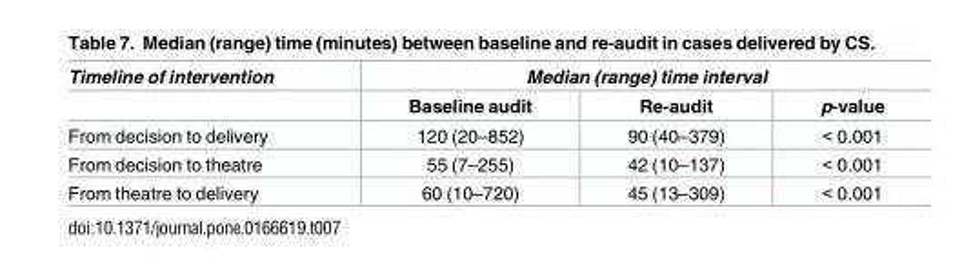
<table><thead><tr><td rowspan="2">Timeline of intervention</td><td colspan="3">Median (range) time interval</td></tr><tr><td>Baseline audit</td><td>Re-audit</td><td>p-value</td></tr></thead><tbody><tr><td>From decision to delivery</td><td>120 (20–852)</td><td>90 (40–379)</td><td>&lt; 0.001</td></tr><tr><td>From decision to theatre</td><td>55 (7–255)</td><td>42 (10–137)</td><td>&lt; 0.001</td></tr><tr><td>From theatre to delivery</td><td>60 (10–720)</td><td>45 (13–309)</td><td>&lt; 0.001</td></tr></tbody></table>